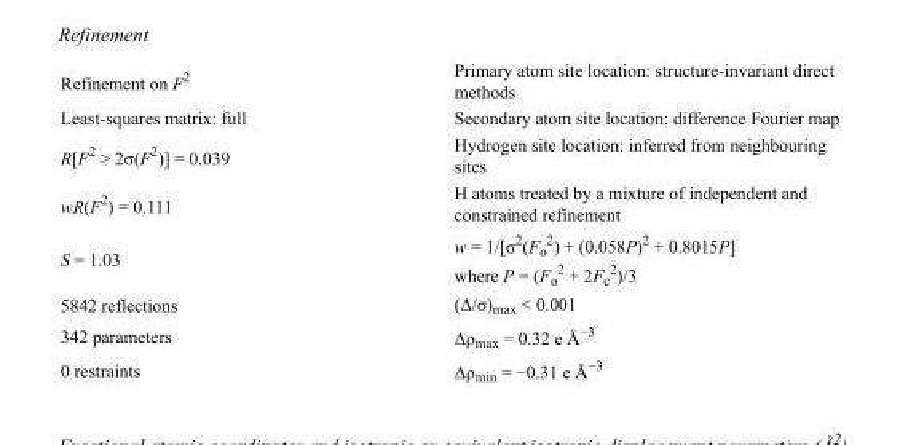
<table><tbody><tr><td>Refinement on F<sup>2</sup></td><td>Primary atom site location: structure-invariant direct methods</td></tr><tr><td>Least-squares matrix: full</td><td>Secondary atom site location: difference Fourier map</td></tr><tr><td>R[F<sup>2</sup> &gt; 2σ(F<sup>2</sup>)] = 0.039</td><td>Hydrogen site location: inferred from neighbouring sites</td></tr><tr><td>wR(F<sup>2</sup>) = 0.111</td><td>H atoms treated by a mixture of independent and constrained refinement</td></tr><tr><td>S = 1.03</td><td>w = 1/[σ<sup>2</sup>(F<sub>o</sub> <sup>2</sup>) + (0.058P)<sup>2</sup> + 0.8015P] where P = (F<sub>o</sub> <sup>2</sup> + 2F<sub>c</sub> <sup>2</sup>)/3</td></tr><tr><td>5842 reflections</td><td>(Δ/σ)<sub>max</sub> &lt; 0.001</td></tr><tr><td>342 parameters</td><td>Δρ<sub>max</sub> = 0.32 e Å<sup>−3</sup></td></tr><tr><td>0 restraints</td><td>Δρ<sub>min</sub> = −0.31 e Å<sup>−3</sup></td></tr></tbody></table>